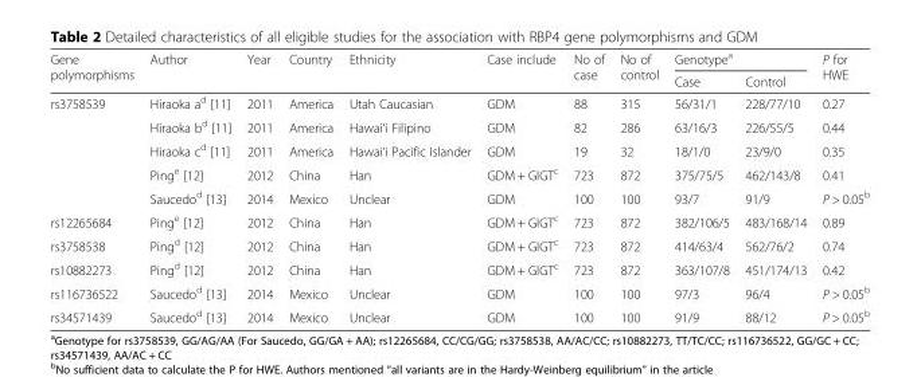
<table><thead><tr><td rowspan="2">Gene polymorphisms</td><td rowspan="2">Author</td><td rowspan="2">Year</td><td rowspan="2">Country</td><td rowspan="2">Ethnicity</td><td rowspan="2">Case include</td><td rowspan="2">No of case</td><td rowspan="2">No of control</td><td colspan="2">Genotype<sup>a</sup></td><td rowspan="2">P for HWE</td></tr><tr><td>Case</td><td>Control</td></tr></thead><tbody><tr><td rowspan="5">rs3758539</td><td>Hiraoka a<sup>d</sup> [11]</td><td>2011</td><td>America</td><td>Utah Caucasian</td><td>GDM</td><td>88</td><td>315</td><td>56/31/1</td><td>228/77/10</td><td>0.27</td></tr><tr><td>Hiraoka b<sup>d</sup> [11]</td><td>2011</td><td>America</td><td>Hawai‘i Filipino</td><td>GDM</td><td>82</td><td>286</td><td>63/16/3</td><td>226/55/5</td><td>0.44</td></tr><tr><td>Hiraoka c<sup>d</sup> [11]</td><td>2011</td><td>America</td><td>Hawai‘i Pacific Islander</td><td>GDM</td><td>19</td><td>32</td><td>18/1/0</td><td>23/9/0</td><td>0.35</td></tr><tr><td>Ping<sup>e</sup> [12]</td><td>2012</td><td>China</td><td>Han</td><td>GDM + GIGT<sup>c</sup></td><td>723</td><td>872</td><td>375/75/5</td><td>462/143/8</td><td>0.41</td></tr><tr><td>Saucedo<sup>d</sup> [13]</td><td>2014</td><td>Mexico</td><td>Unclear</td><td>GDM</td><td>100</td><td>100</td><td>93/7</td><td>91/9</td><td>P &gt; 0.05<sup>b</sup></td></tr><tr><td>rs12265684</td><td>Ping<sup>e</sup> [12]</td><td>2012</td><td>China</td><td>Han</td><td>GDM + GIGT<sup>c</sup></td><td>723</td><td>872</td><td>382/106/5</td><td>483/168/14</td><td>0.89</td></tr><tr><td>rs3758538</td><td>Ping<sup>d</sup> [12]</td><td>2012</td><td>China</td><td>Han</td><td>GDM + GIGT<sup>c</sup></td><td>723</td><td>872</td><td>414/63/4</td><td>562/76/2</td><td>0.74</td></tr><tr><td>rs10882273</td><td>Ping<sup>d</sup> [12]</td><td>2012</td><td>China</td><td>Han</td><td>GDM + GIGT<sup>c</sup></td><td>723</td><td>872</td><td>363/107/8</td><td>451/174/13</td><td>0.42</td></tr><tr><td>rs116736522</td><td>Saucedo<sup>d</sup> [13]</td><td>2014</td><td>Mexico</td><td>Unclear</td><td>GDM</td><td>100</td><td>100</td><td>97/3</td><td>96/4</td><td>P &gt; 0.05<sup>b</sup></td></tr><tr><td>rs34571439</td><td>Saucedo<sup>d</sup> [13]</td><td>2014</td><td>Mexico</td><td>Unclear</td><td>GDM</td><td>100</td><td>100</td><td>91/9</td><td>88/12</td><td>P &gt; 0.05<sup>b</sup></td></tr></tbody></table>